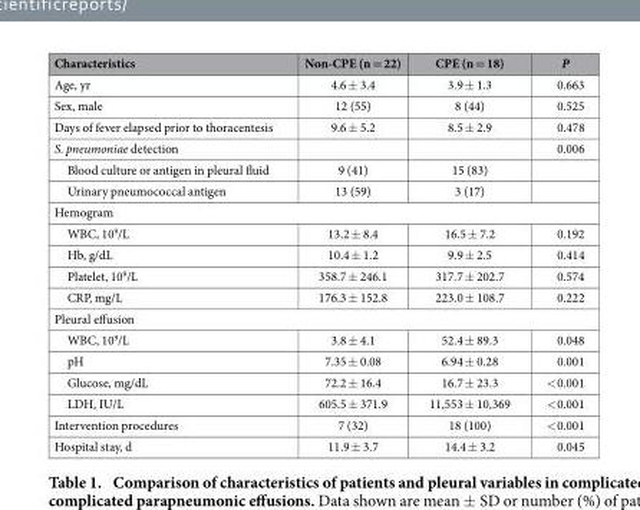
<table><thead><tr><td>Characteristics</td><td>Non-CPE (n = 22)</td><td>CPE (n = 18)</td><td>P</td></tr></thead><tbody><tr><td>Age, yr</td><td>4.6 ± 3.4</td><td>3.9 ± 1.3</td><td>0.663</td></tr><tr><td>Sex, male</td><td>12 (55)</td><td>8 (44)</td><td>0.525</td></tr><tr><td>Days of fever elapsed prior to thoracentesis</td><td>9.6 ± 5.2</td><td>8.5 ± 2.9</td><td>0.478</td></tr><tr><td>S. pneumoniae detection</td><td></td><td></td><td>0.006</td></tr><tr><td>Blood culture or antigen in pleural fluid</td><td>9 (41)</td><td>15 (83)</td><td></td></tr><tr><td>Urinary pneumococcal antigen</td><td>13 (59)</td><td>3 (17)</td><td></td></tr><tr><td colspan="4">Hemogram</td></tr><tr><td>WBC, 10<sup>9</sup>/L</td><td>13.2 ± 8.4</td><td>16.5 ± 7.2</td><td>0.192</td></tr><tr><td>Hb, g/dL</td><td>10.4 ± 1.2</td><td>9.9 ± 2.5</td><td>0.414</td></tr><tr><td>Platelet, 10<sup>9</sup>/L</td><td>358.7 ± 246.1</td><td>317.7 ± 202.7</td><td>0.574</td></tr><tr><td>CRP, mg/L</td><td>176.3 ± 152.8</td><td>223.0 ± 108.7</td><td>0.222</td></tr><tr><td colspan="4">Pleural effusion</td></tr><tr><td>WBC, 10<sup>9</sup>/L</td><td>3.8 ± 4.1</td><td>52.4 ± 89.3</td><td>0.048</td></tr><tr><td>pH</td><td>7.35 ± 0.08</td><td>6.94 ± 0.28</td><td>0.001</td></tr><tr><td>Glucose, mg/dL</td><td>72.2 ± 16.4</td><td>16.7 ± 23.3</td><td>&lt; 0.001</td></tr><tr><td>LDH, IU/L</td><td>605.5 ± 371.9</td><td>11,553 ± 10,369</td><td>&lt; 0.001</td></tr><tr><td>Intervention procedures</td><td>7 (32)</td><td>18 (100)</td><td>&lt; 0.001</td></tr><tr><td>Hospital stay, d</td><td>11.9 ± 3.7</td><td>14.4 ± 3.2</td><td>0.045</td></tr></tbody></table>